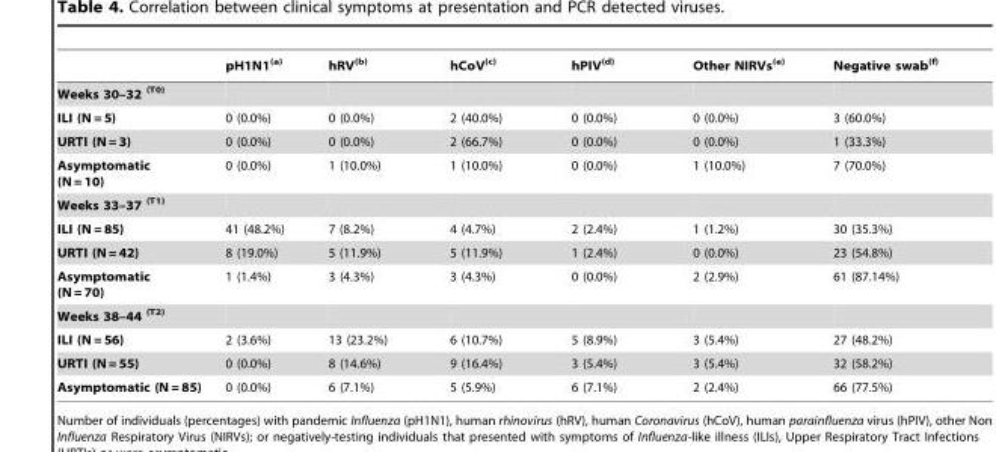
<table><thead><tr><td></td><td>pH1N1<sup>(a)</sup></td><td>hRV<sup>(b)</sup></td><td>hCoV<sup>(c)</sup></td><td>hPIV<sup>(d)</sup></td><td>Other NIRVs<sup>(e)</sup></td><td>Negative swab<sup>(f)</sup></td></tr></thead><tbody><tr><td colspan="7">Weeks 30–32 <sup>(T0)</sup></td></tr><tr><td>ILI (N = 5)</td><td>0 (0.0%)</td><td>0 (0.0%)</td><td>2 (40.0%)</td><td>0 (0.0%)</td><td>0 (0.0%)</td><td>3 (60.0%)</td></tr><tr><td>URTI (N = 3)</td><td>0 (0.0%)</td><td>0 (0.0%)</td><td>2 (66.7%)</td><td>0 (0.0%)</td><td>0 (0.0%)</td><td>1 (33.3%)</td></tr><tr><td>Asymptomatic (N = 10)</td><td>0 (0.0%)</td><td>1 (10.0%)</td><td>1 (10.0%)</td><td>0 (0.0%)</td><td>1 (10.0%)</td><td>7 (70.0%)</td></tr><tr><td colspan="7">Weeks 33–37 <sup>(T1)</sup></td></tr><tr><td>ILI (N = 85)</td><td>41 (48.2%)</td><td>7 (8.2%)</td><td>4 (4.7%)</td><td>2 (2.4%)</td><td>1 (1.2%)</td><td>30 (35.3%)</td></tr><tr><td>URTI (N = 42)</td><td>8 (19.0%)</td><td>5 (11.9%)</td><td>5 (11.9%)</td><td>1 (2.4%)</td><td>0 (0.0%)</td><td>23 (54.8%)</td></tr><tr><td>Asymptomatic (N = 70)</td><td>1 (1.4%)</td><td>3 (4.3%)</td><td>3 (4.3%)</td><td>0 (0.0%)</td><td>2 (2.9%)</td><td>61 (87.14%)</td></tr><tr><td colspan="7">Weeks 38–44 <sup>(T2)</sup></td></tr><tr><td>ILI (N = 56)</td><td>2 (3.6%)</td><td>13 (23.2%)</td><td>6 (10.7%)</td><td>5 (8.9%)</td><td>3 (5.4%)</td><td>27 (48.2%)</td></tr><tr><td>URTI (N = 55)</td><td>0 (0.0%)</td><td>8 (14.6%)</td><td>9 (16.4%)</td><td>3 (5.4%)</td><td>3 (5.4%)</td><td>32 (58.2%)</td></tr><tr><td>Asymptomatic (N = 85)</td><td>0 (0.0%)</td><td>6 (7.1%)</td><td>5 (5.9%)</td><td>6 (7.1%)</td><td>2 (2.4%)</td><td>66 (77.5%)</td></tr></tbody></table>